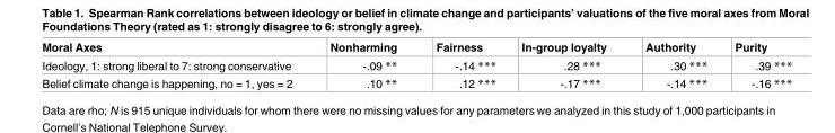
<table><thead><tr><td>Moral Axes</td><td>Nonharming</td><td>Fairness</td><td>In-group loyalty</td><td>Authority</td><td>Purity</td></tr></thead><tbody><tr><td>Ideology, 1: strong liberal to 7: strong conservative</td><td>-.09 **</td><td>-.14 ***</td><td>.28 ***</td><td>.30 ***</td><td>.39 ***</td></tr><tr><td>Belief climate change is happening, no = 1, yes = 2</td><td>.10 **</td><td>.12 ***</td><td>-.17 ***</td><td>-.14 ***</td><td>-.16 ***</td></tr></tbody></table>